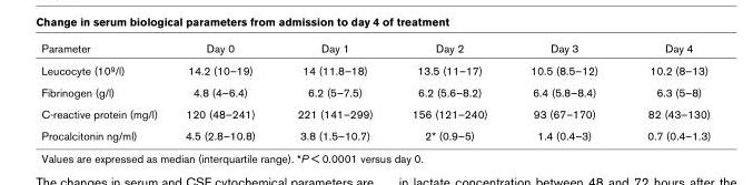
<table><thead><tr><td>Parameter</td><td>Day 0</td><td>Day 1</td><td>Day 2</td><td>Day 3</td><td>Day 4</td></tr></thead><tbody><tr><td>Leucocyte (109/l)</td><td>14.2 (10–19)</td><td>14 (11.8–18)</td><td>13.5 (11–17)</td><td>10.5 (8.5–12)</td><td>10.2 (8–13)</td></tr><tr><td>Fibrinogen (g/l)</td><td>4.8 (4–6.4)</td><td>6.2 (5–7.5)</td><td>6.2 (5.6–8.2)</td><td>6.4 (5.8–8.4)</td><td>6.3 (5–8)</td></tr><tr><td>C-reactive protein (mg/l)</td><td>120 (48–241)</td><td>221 (141–299)</td><td>156 (121–240)</td><td>93 (67–170)</td><td>82 (43–130)</td></tr><tr><td>Procalcitonin ng/ml)</td><td>4.5 (2.8–10.8)</td><td>3.8 (1.5–10.7)</td><td>2* (0.9–5)</td><td>1.4 (0.4–3)</td><td>0.7 (0.4–1.3)</td></tr></tbody></table>